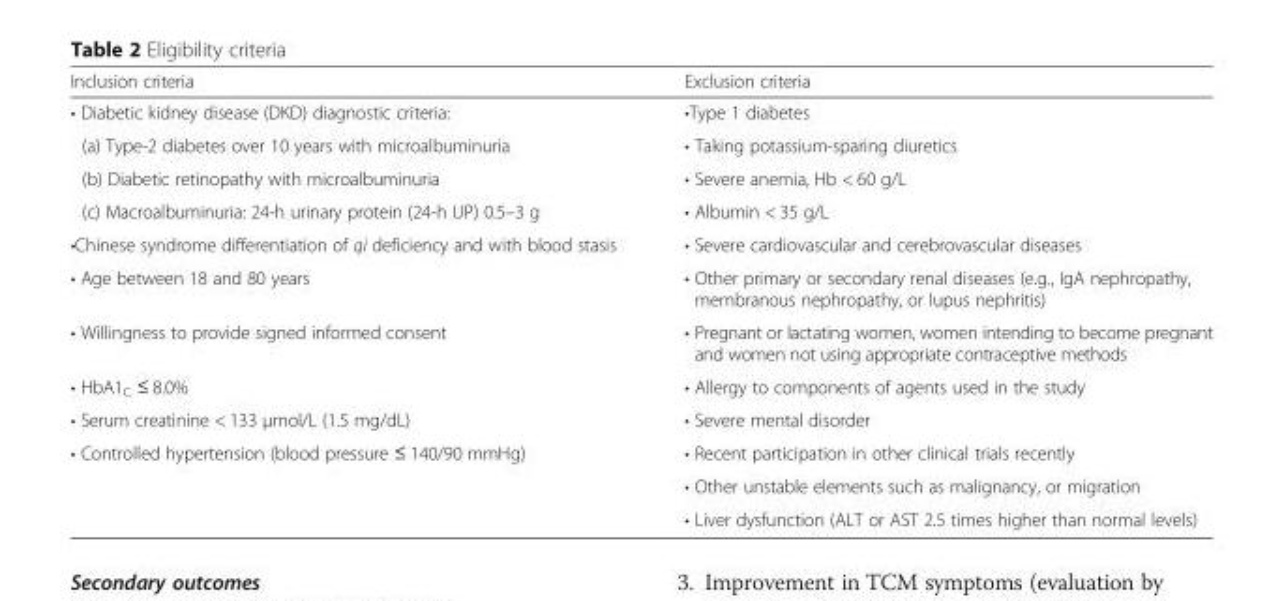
<table><thead><tr><td>Inclusion criteria</td><td>Exclusion criteria</td></tr></thead><tbody><tr><td>• Diabetic kidney disease (DKD) diagnostic criteria:</td><td>•Type 1 diabetes</td></tr><tr><td>(a) Type-2 diabetes over 10 years with microalbuminuria</td><td>• Taking potassium-sparing diuretics</td></tr><tr><td>(b) Diabetic retinopathy with microalbuminuria</td><td>• Severe anemia, Hb &lt; 60 g/L</td></tr><tr><td>(c) Macroalbuminuria: 24-h urinary protein (24-h UP) 0.5–3 g</td><td>• Albumin &lt; 35 g/L</td></tr><tr><td>•Chinese syndrome differentiation of qi deficiency and with blood stasis</td><td>• Severe cardiovascular and cerebrovascular diseases</td></tr><tr><td>• Age between 18 and 80 years</td><td>• Other primary or secondary renal diseases (e.g., IgA nephropathy, membranous nephropathy, or lupus nephritis)</td></tr><tr><td>• Willingness to provide signed informed consent</td><td>• Pregnant or lactating women, women intending to become pregnant and women not using appropriate contraceptive methods</td></tr><tr><td>• HbA1<sub>C</sub> ≤ 8.0%</td><td>• Allergy to components of agents used in the study</td></tr><tr><td>• Serum creatinine &lt; 133 μmol/L (1.5 mg/dL)</td><td>• Severe mental disorder</td></tr><tr><td rowspan="3">• Controlled hypertension (blood pressure ≤ 140/90 mmHg)</td><td>• Recent participation in other clinical trials recently</td></tr><tr><td>• Other unstable elements such as malignancy, or migration</td></tr><tr><td>• Liver dysfunction (ALT or AST 2.5 times higher than normal levels)</td></tr></tbody></table>